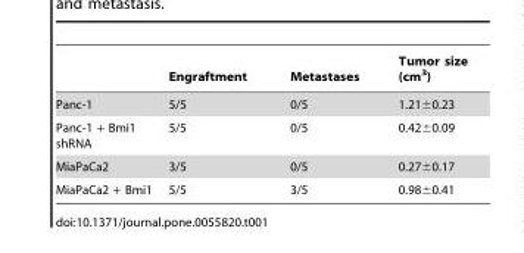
<table><thead><tr><td></td><td>Engraftment</td><td>Metastases</td><td>Tumor size (cm<sup>3</sup>)</td></tr></thead><tbody><tr><td>Panc-1</td><td>5/5</td><td>0/5</td><td>1.21±0.23</td></tr><tr><td>Panc-1 + Bmi1 shRNA</td><td>5/5</td><td>0/5</td><td>0.42±0.09</td></tr><tr><td>MiaPaCa2</td><td>3/5</td><td>0/5</td><td>0.27±0.17</td></tr><tr><td>MiaPaCa2 + Bmi1</td><td>5/5</td><td>3/5</td><td>0.98±0.41</td></tr></tbody></table>